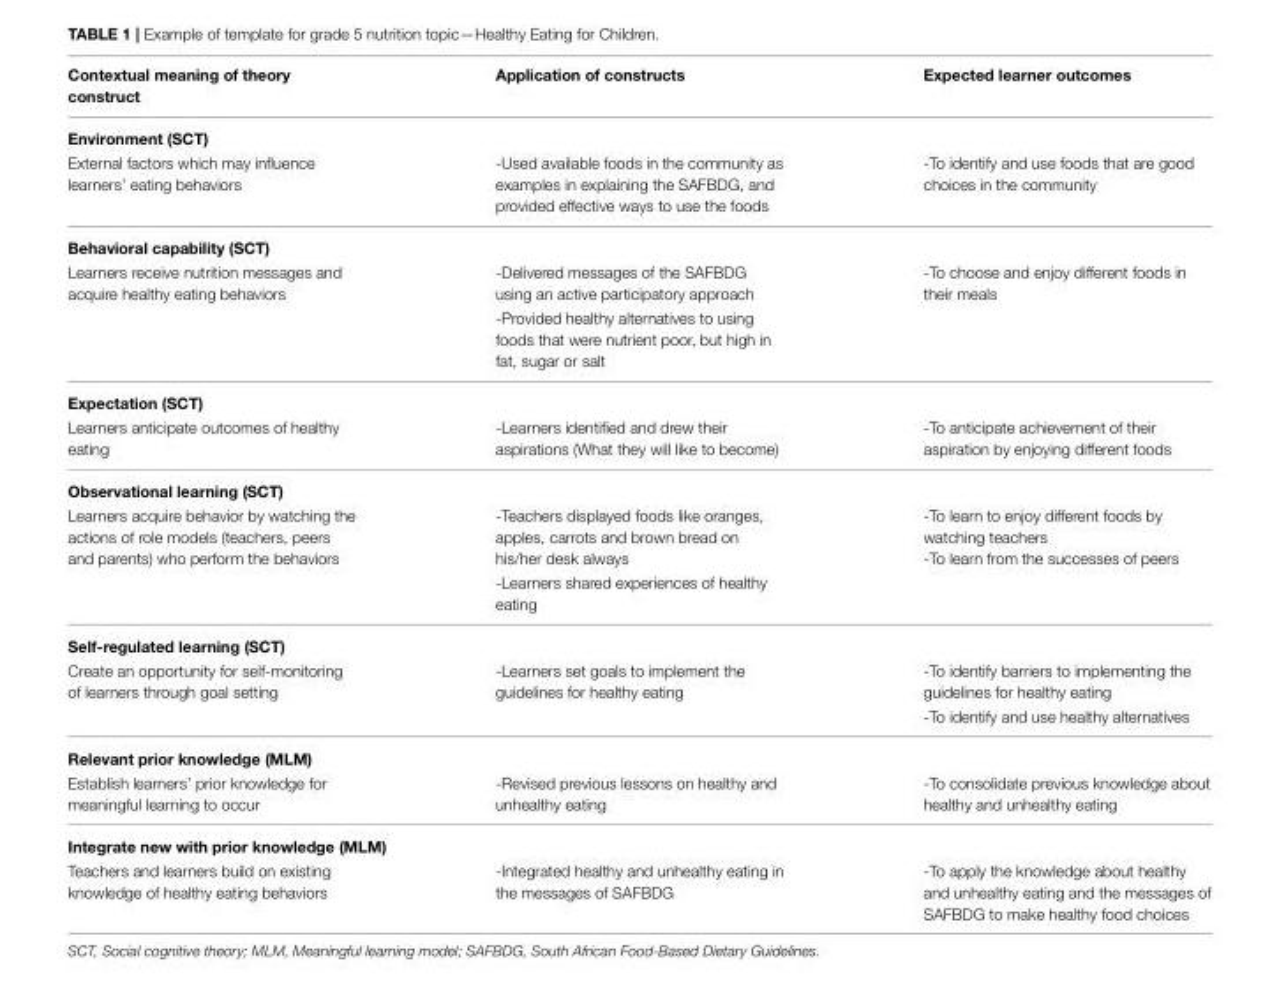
<table><thead><tr><td>Contextual meaning of theory construct</td><td>Application of constructs</td><td>Expected learner outcomes</td></tr></thead><tbody><tr><td colspan="3">Environment (SCT)</td></tr><tr><td>External factors which may influence learners’ eating behaviors</td><td>-Used available foods in the community as examples in explaining the SAFBDG, and provided effective ways to use the foods</td><td>-To identify and use foods that are good choices in the community</td></tr><tr><td colspan="3">Behavioral capability (SCT)</td></tr><tr><td rowspan="2">Learners receive nutrition messages and acquire healthy eating behaviors</td><td>-Delivered messages of the SAFBDG using an active participatory approach</td><td>-To choose and enjoy different foods in their meals</td></tr><tr><td>-Provided healthy alternatives to using foods that were nutrient poor, but high in fat, sugar or salt</td><td></td></tr><tr><td colspan="3">Expectation (SCT)</td></tr><tr><td>Learners anticipate outcomes of healthy eating</td><td>-Learners identified and drew their aspirations (What they will like to become)</td><td>-To anticipate achievement of their aspiration by enjoying different foods</td></tr><tr><td colspan="3">Observational learning (SCT)</td></tr><tr><td rowspan="2">Learners acquire behavior by watching the actions of role models (teachers, peers and parents) who perform the behaviors</td><td>-Teachers displayed foods like oranges, apples, carrots and brown bread on his/her desk always</td><td>-To learn to enjoy different foods by watching teachers -To learn from the successes of peers</td></tr><tr><td>-Learners shared experiences of healthy eating</td><td></td></tr><tr><td colspan="3">Self-regulated learning (SCT)</td></tr><tr><td rowspan="2">Create an opportunity for self-monitoring of learners through goal setting</td><td>-Learners set goals to implement the guidelines for healthy eating</td><td>-To identify barriers to implementing the guidelines for healthy eating</td></tr><tr><td></td><td>-To identify and use healthy alternatives</td></tr><tr><td colspan="3">Relevant prior knowledge (MLM)</td></tr><tr><td>Establish learners’ prior knowledge for meaningful learning to occur</td><td>-Revised previous lessons on healthy and unhealthy eating</td><td>-To consolidate previous knowledge about healthy and unhealthy eating</td></tr><tr><td colspan="3">Integrate new with prior knowledge (MLM)</td></tr><tr><td>Teachers and learners build on existing knowledge of healthy eating behaviors</td><td>-Integrated healthy and unhealthy eating in the messages of SAFBDG</td><td>-To apply the knowledge about healthy and unhealthy eating and the messages of SAFBDG to make healthy food choices</td></tr></tbody></table>